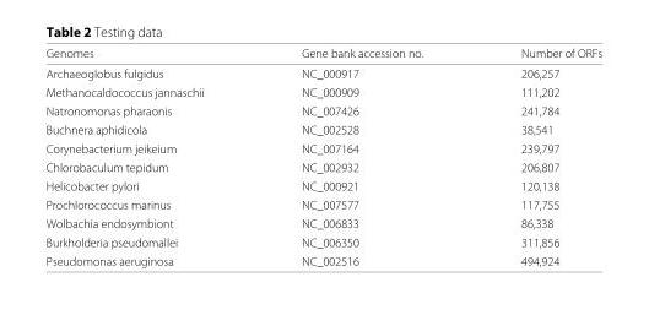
<table><thead><tr><td>Genomes</td><td>Gene bank accession no.</td><td>Number of ORFs</td></tr></thead><tbody><tr><td>Archaeoglobus fulgidus</td><td>NC_000917</td><td>206,257</td></tr><tr><td>Methanocaldococcus jannaschii</td><td>NC_000909</td><td>111,202</td></tr><tr><td>Natronomonas pharaonis</td><td>NC_007426</td><td>241,784</td></tr><tr><td>Buchnera aphidicola</td><td>NC_002528</td><td>38,541</td></tr><tr><td>Corynebacterium jeikeium</td><td>NC_007164</td><td>239,797</td></tr><tr><td>Chlorobaculum tepidum</td><td>NC_002932</td><td>206,807</td></tr><tr><td>Helicobacter pylori</td><td>NC_000921</td><td>120,138</td></tr><tr><td>Prochlorococcus marinus</td><td>NC_007577</td><td>117,755</td></tr><tr><td>Wolbachia endosymbiont</td><td>NC_006833</td><td>86,338</td></tr><tr><td>Burkholderia pseudomallei</td><td>NC_006350</td><td>311,856</td></tr><tr><td>Pseudomonas aeruginosa</td><td>NC_002516</td><td>494,924</td></tr></tbody></table>